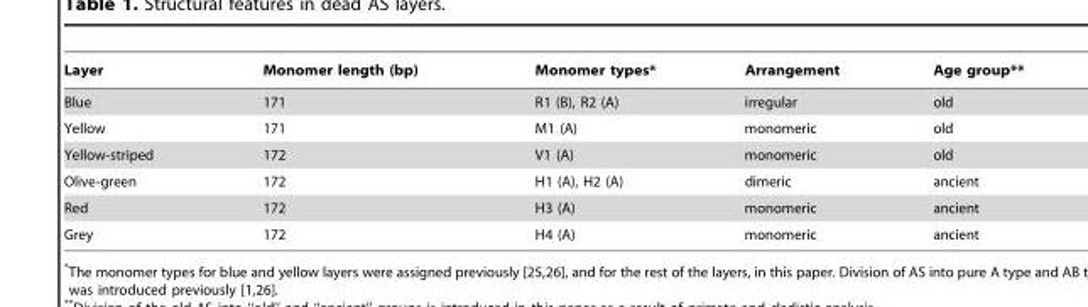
<table><thead><tr><td>Layer</td><td>Monomer length (bp)</td><td>Monomer types*</td><td>Arrangement</td><td>Age group**</td></tr></thead><tbody><tr><td>Blue</td><td>171</td><td>R1 (B), R2 (A)</td><td>irregular</td><td>old</td></tr><tr><td>Yellow</td><td>171</td><td>M1 (A)</td><td>monomeric</td><td>old</td></tr><tr><td>Yellow-striped</td><td>172</td><td>V1 (A)</td><td>monomeric</td><td>old</td></tr><tr><td>Olive-green</td><td>172</td><td>H1 (A), H2 (A)</td><td>dimeric</td><td>ancient</td></tr><tr><td>Red</td><td>172</td><td>H3 (A)</td><td>monomeric</td><td>ancient</td></tr><tr><td>Grey</td><td>172</td><td>H4 (A)</td><td>monomeric</td><td>ancient</td></tr></tbody></table>